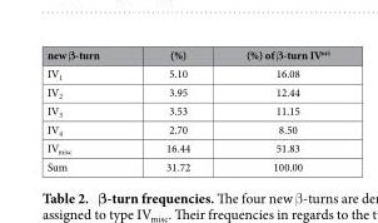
<table><thead><tr><td>new β-turn</td><td>(%)</td><td>(%) of β-turn IV<sup>ori</sup></td></tr></thead><tbody><tr><td>IV<sub>1</sub></td><td>5.10</td><td>16.08</td></tr><tr><td>IV<sub>2</sub></td><td>3.95</td><td>12.44</td></tr><tr><td>IV<sub>3</sub></td><td>3.53</td><td>11.15</td></tr><tr><td>IV<sub>4</sub></td><td>2.70</td><td>8.50</td></tr><tr><td>IV<sub>misc</sub></td><td>16.44</td><td>51.83</td></tr><tr><td>Sum</td><td>31.72</td><td>100.00</td></tr></tbody></table>